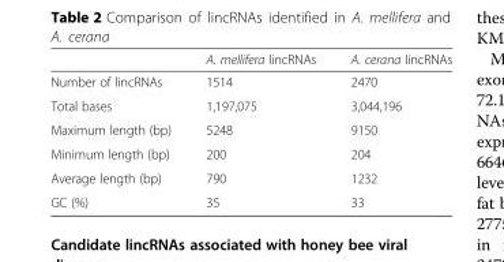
<table><thead><tr><td></td><td>A. mellifera lincRNAs</td><td>A. cerana lincRNAs</td></tr></thead><tbody><tr><td>Number of lincRNAs</td><td>1514</td><td>2470</td></tr><tr><td>Total bases</td><td>1,197,075</td><td>3,044,196</td></tr><tr><td>Maximum length (bp)</td><td>5248</td><td>9150</td></tr><tr><td>Minimum length (bp)</td><td>200</td><td>204</td></tr><tr><td>Average length (bp)</td><td>790</td><td>1232</td></tr><tr><td>GC (%)</td><td>35</td><td>33</td></tr></tbody></table>